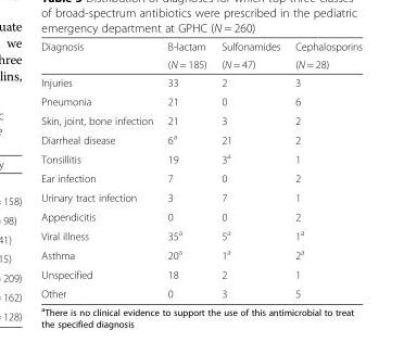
<table><thead><tr><td rowspan="2">Diagnosis</td><td rowspan="2">B-lactam (N = 185)</td><td rowspan="2">Sulfonamides (N = 47)</td><td rowspan="2">Cephalosporins (N = 28)</td></tr><tr></tr></thead><tbody><tr><td>Injuries</td><td>33</td><td>2</td><td>3</td></tr><tr><td>Pneumonia</td><td>21</td><td>0</td><td>6</td></tr><tr><td>Skin, joint, bone infection</td><td>21</td><td>3</td><td>2</td></tr><tr><td>Diarrheal disease</td><td>6<sup>a</sup></td><td>21</td><td>2</td></tr><tr><td>Tonsillitis</td><td>19</td><td>3<sup>a</sup></td><td>1</td></tr><tr><td>Ear infection</td><td>7</td><td>0</td><td>2</td></tr><tr><td>Urinary tract infection</td><td>3</td><td>7</td><td>1</td></tr><tr><td>Appendicitis</td><td>0</td><td>0</td><td>2</td></tr><tr><td>Viral illness</td><td>35<sup>a</sup></td><td>5<sup>a</sup></td><td>1<sup>a</sup></td></tr><tr><td>Asthma</td><td>20<sup>a</sup></td><td>1<sup>a</sup></td><td>2<sup>a</sup></td></tr><tr><td>Unspecified</td><td>18</td><td>2</td><td>1</td></tr><tr><td>Other</td><td>0</td><td>3</td><td>5</td></tr></tbody></table>